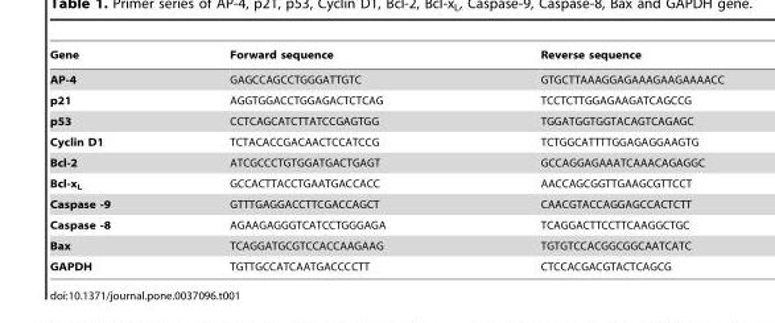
<table><thead><tr><td>Gene</td><td>Forward sequence</td><td>Reverse sequence</td></tr></thead><tbody><tr><td>AP-4</td><td>GAGCCAGCCTGGGATTGTC</td><td>GTGCTTAAAGGAGAAAGAAGAAAACC</td></tr><tr><td>p21</td><td>AGGTGGACCTGGAGACTCTCAG</td><td>TCCTCTTGGAGAAGATCAGCCG</td></tr><tr><td>p53</td><td>CCTCAGCATCTTATCCGAGTGG</td><td>TGGATGGTGGTACAGTCAGAGC</td></tr><tr><td>Cyclin D1</td><td>TCTACACCGACAACTCCATCCG</td><td>TCTGGCATTTTGGAGAGGAAGTG</td></tr><tr><td>Bcl-2</td><td>ATCGCCCTGTGGATGACTGAGT</td><td>GCCAGGAGAAATCAAACAGAGGC</td></tr><tr><td>Bcl-x<sub>L</sub></td><td>GCCACTTACCTGAATGACCACC</td><td>AACCAGCGGTTGAAGCGTTCCT</td></tr><tr><td>Caspase -9</td><td>GTTTGAGGACCTTCGACCAGCT</td><td>CAACGTACCAGGAGCCACTCTT</td></tr><tr><td>Caspase -8</td><td>AGAAGAGGGTCATCCTGGGAGA</td><td>TCAGGACTTCCTTCAAGGCTGC</td></tr><tr><td>Bax</td><td>TCAGGATGCGTCCACCAAGAAG</td><td>TGTGTCCACGGCGGCAATCATC</td></tr><tr><td>GAPDH</td><td>TGTTGCCATCAATGACCCCTT</td><td>CTCCACGACGTACTCAGCG</td></tr></tbody></table>